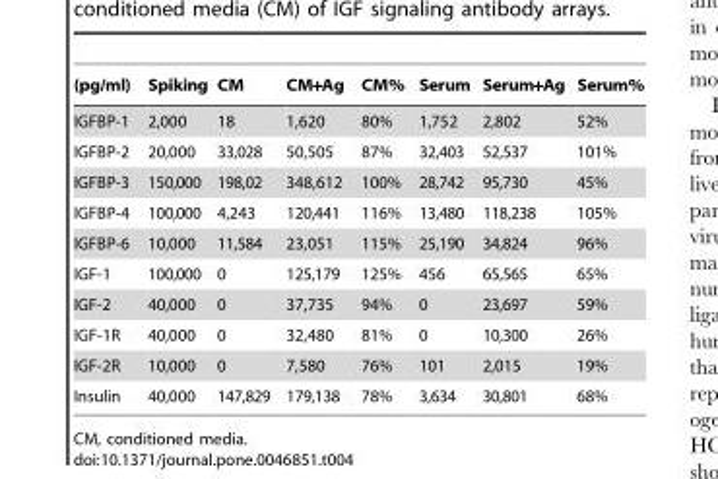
<table><thead><tr><td>(pg/ml)</td><td>Spiking</td><td>CM</td><td>CM+Ag</td><td>CM%</td><td>Serum</td><td>Serum+Ag</td><td>Serum%</td></tr></thead><tbody><tr><td>IGFBP-1</td><td>2,000</td><td>18</td><td>1,620</td><td>80%</td><td>1,752</td><td>2,802</td><td>52%</td></tr><tr><td>IGFBP-2</td><td>20,000</td><td>33,028</td><td>50,505</td><td>87%</td><td>32,403</td><td>52,537</td><td>101%</td></tr><tr><td>IGFBP-3</td><td>150,000</td><td>198,02</td><td>348,612</td><td>100%</td><td>28,742</td><td>95,730</td><td>45%</td></tr><tr><td>IGFBP-4</td><td>100,000</td><td>4,243</td><td>120,441</td><td>116%</td><td>13,480</td><td>118,238</td><td>105%</td></tr><tr><td>IGFBP-6</td><td>10,000</td><td>11,584</td><td>23,051</td><td>115%</td><td>25,190</td><td>34,824</td><td>96%</td></tr><tr><td>IGF-1</td><td>100,000</td><td>0</td><td>125,179</td><td>125%</td><td>456</td><td>65,565</td><td>65%</td></tr><tr><td>IGF-2</td><td>40,000</td><td>0</td><td>37,735</td><td>94%</td><td>0</td><td>23,697</td><td>59%</td></tr><tr><td>IGF-1R</td><td>40,000</td><td>0</td><td>32,480</td><td>81%</td><td>0</td><td>10,300</td><td>26%</td></tr><tr><td>IGF-2R</td><td>10,000</td><td>0</td><td>7,580</td><td>76%</td><td>101</td><td>2,015</td><td>19%</td></tr><tr><td>Insulin</td><td>40,000</td><td>147,829</td><td>179,138</td><td>78%</td><td>3,634</td><td>30,801</td><td>68%</td></tr></tbody></table>